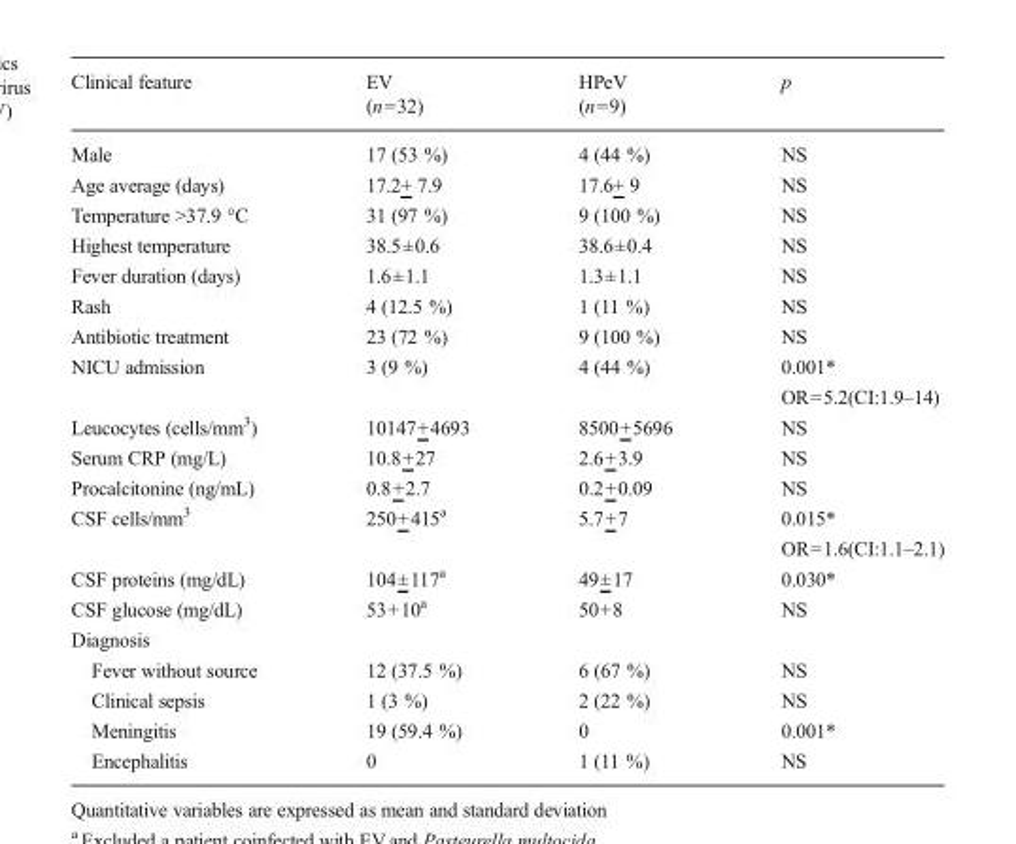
<table><thead><tr><td rowspan="2">Clinical feature</td><td rowspan="2">EV (n=32)</td><td rowspan="2">HPeV (n=9)</td><td rowspan="2">p</td></tr><tr></tr></thead><tbody><tr><td>Male</td><td>17 (53 %)</td><td>4 (44 %)</td><td>NS</td></tr><tr><td>Age average (days)</td><td>17.2+ 7.9</td><td>17.6+ 9</td><td>NS</td></tr><tr><td>Temperature &gt;37.9 °C</td><td>31 (97 %)</td><td>9 (100 %)</td><td>NS</td></tr><tr><td>Highest temperature</td><td>38.5±0.6</td><td>38.6±0.4</td><td>NS</td></tr><tr><td>Fever duration (days)</td><td>1.6±1.1</td><td>1.3±1.1</td><td>NS</td></tr><tr><td>Rash</td><td>4 (12.5 %)</td><td>1 (11 %)</td><td>NS</td></tr><tr><td>Antibiotic treatment</td><td>23 (72 %)</td><td>9 (100 %)</td><td>NS</td></tr><tr><td>NICU admission</td><td>3 (9 %)</td><td>4 (44 %)</td><td>0.001*</td></tr><tr><td colspan="3"></td><td>OR=5.2(CI:1.9–14)</td></tr><tr><td>Leucocytes (cells/mm<sup>3</sup>)</td><td>10147+4693</td><td>8500+5696</td><td>NS</td></tr><tr><td>Serum CRP (mg/L)</td><td>10.8+27</td><td>2.6+3.9</td><td>NS</td></tr><tr><td>Procalcitonine (ng/mL)</td><td>0.8+2.7</td><td>0.2+0.09</td><td>NS</td></tr><tr><td>CSF cells/mm<sup>3</sup></td><td>250+415<sup>a</sup></td><td>5.7+7</td><td>0.015*</td></tr><tr><td colspan="3"></td><td>OR=1.6(CI:1.1–2.1)</td></tr><tr><td>CSF proteins (mg/dL)</td><td>104±117<sup>a</sup></td><td>49±17</td><td>0.030*</td></tr><tr><td>CSF glucose (mg/dL)</td><td>53+10<sup>a</sup></td><td>50+8</td><td>NS</td></tr><tr><td colspan="4">Diagnosis</td></tr><tr><td>Fever without source</td><td>12 (37.5 %)</td><td>6 (67 %)</td><td>NS</td></tr><tr><td>Clinical sepsis</td><td>1 (3 %)</td><td>2 (22 %)</td><td>NS</td></tr><tr><td>Meningitis</td><td>19 (59.4 %)</td><td>0</td><td>0.001*</td></tr><tr><td>Encephalitis</td><td>0</td><td>1 (11 %)</td><td>NS</td></tr></tbody></table>